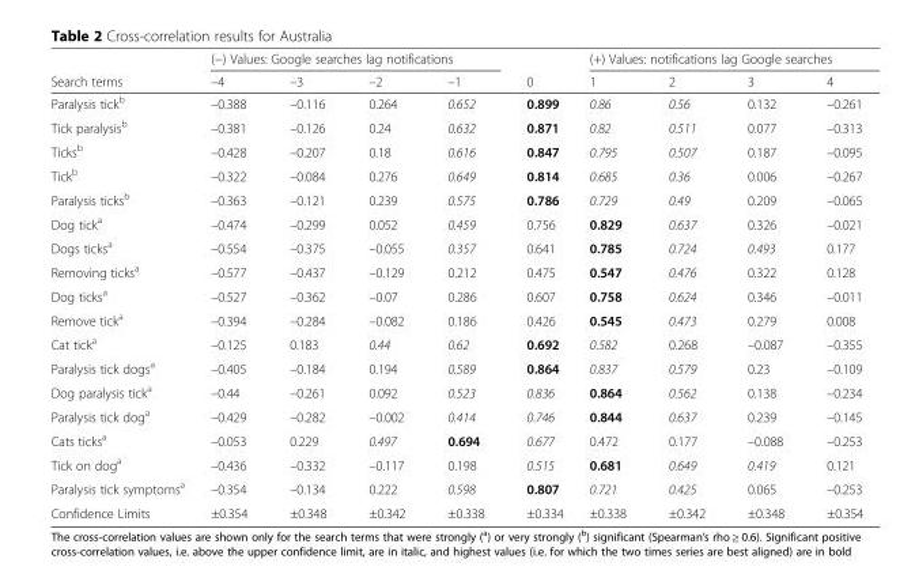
<table><thead><tr><td rowspan="2">Search terms</td><td colspan="4">(−) Values: Google searches lag notifications</td><td rowspan="2">0</td><td colspan="4">(+) Values: notifications lag Google searches</td></tr><tr><td>–4</td><td>–3</td><td>–2</td><td>–1</td><td>1</td><td>2</td><td>3</td><td>4</td></tr></thead><tbody><tr><td>Paralysis tick<sup>b</sup></td><td>–0.388</td><td>–0.116</td><td>0.264</td><td>0.652</td><td>0.899</td><td>0.86</td><td>0.56</td><td>0.132</td><td>–0.261</td></tr><tr><td>Tick paralysis<sup>b</sup></td><td>–0.381</td><td>–0.126</td><td>0.24</td><td>0.632</td><td>0.871</td><td>0.82</td><td>0.511</td><td>0.077</td><td>–0.313</td></tr><tr><td>Ticks<sup>b</sup></td><td>–0.428</td><td>–0.207</td><td>0.18</td><td>0.616</td><td>0.847</td><td>0.795</td><td>0.507</td><td>0.187</td><td>–0.095</td></tr><tr><td>Tick<sup>b</sup></td><td>–0.322</td><td>–0.084</td><td>0.276</td><td>0.649</td><td>0.814</td><td>0.685</td><td>0.36</td><td>0.006</td><td>–0.267</td></tr><tr><td>Paralysis ticks<sup>b</sup></td><td>–0.363</td><td>–0.121</td><td>0.239</td><td>0.575</td><td>0.786</td><td>0.729</td><td>0.49</td><td>0.209</td><td>–0.065</td></tr><tr><td>Dog tick<sup>a</sup></td><td>–0.474</td><td>–0.299</td><td>0.052</td><td>0.459</td><td>0.756</td><td>0.829</td><td>0.637</td><td>0.326</td><td>–0.021</td></tr><tr><td>Dogs ticks<sup>a</sup></td><td>–0.554</td><td>–0.375</td><td>–0.055</td><td>0.357</td><td>0.641</td><td>0.785</td><td>0.724</td><td>0.493</td><td>0.177</td></tr><tr><td>Removing ticks<sup>a</sup></td><td>–0.577</td><td>–0.437</td><td>–0.129</td><td>0.212</td><td>0.475</td><td>0.547</td><td>0.476</td><td>0.322</td><td>0.128</td></tr><tr><td>Dog ticks<sup>a</sup></td><td>–0.527</td><td>–0.362</td><td>–0.07</td><td>0.286</td><td>0.607</td><td>0.758</td><td>0.624</td><td>0.346</td><td>–0.011</td></tr><tr><td>Remove tick<sup>a</sup></td><td>–0.394</td><td>–0.284</td><td>–0.082</td><td>0.186</td><td>0.426</td><td>0.545</td><td>0.473</td><td>0.279</td><td>0.008</td></tr><tr><td>Cat tick<sup>a</sup></td><td>–0.125</td><td>0.183</td><td>0.44</td><td>0.62</td><td>0.692</td><td>0.582</td><td>0.268</td><td>–0.087</td><td>–0.355</td></tr><tr><td>Paralysis tick dogs<sup>a</sup></td><td>–0.405</td><td>–0.184</td><td>0.194</td><td>0.589</td><td>0.864</td><td>0.837</td><td>0.579</td><td>0.23</td><td>–0.109</td></tr><tr><td>Dog paralysis tick<sup>a</sup></td><td>–0.44</td><td>–0.261</td><td>0.092</td><td>0.523</td><td>0.836</td><td>0.864</td><td>0.562</td><td>0.138</td><td>–0.234</td></tr><tr><td>Paralysis tick dog<sup>a</sup></td><td>–0.429</td><td>–0.282</td><td>–0.002</td><td>0.414</td><td>0.746</td><td>0.844</td><td>0.637</td><td>0.239</td><td>–0.145</td></tr><tr><td>Cats ticks<sup>a</sup></td><td>–0.053</td><td>0.229</td><td>0.497</td><td>0.694</td><td>0.677</td><td>0.472</td><td>0.177</td><td>–0.088</td><td>–0.253</td></tr><tr><td>Tick on dog<sup>a</sup></td><td>–0.436</td><td>–0.332</td><td>–0.117</td><td>0.198</td><td>0.515</td><td>0.681</td><td>0.649</td><td>0.419</td><td>0.121</td></tr><tr><td>Paralysis tick symptoms<sup>a</sup></td><td>–0.354</td><td>–0.134</td><td>0.222</td><td>0.598</td><td>0.807</td><td>0.721</td><td>0.425</td><td>0.065</td><td>–0.253</td></tr><tr><td>Confidence Limits</td><td>±0.354</td><td>±0.348</td><td>±0.342</td><td>±0.338</td><td>±0.334</td><td>±0.338</td><td>±0.342</td><td>±0.348</td><td>±0.354</td></tr></tbody></table>